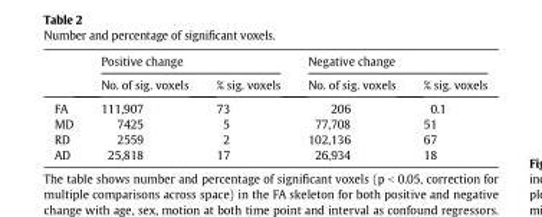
<table><thead><tr><td rowspan="2"></td><td colspan="2">Positive change</td><td colspan="2">Negative change</td></tr><tr><td>No. of sig. voxels</td><td>% sig. voxels</td><td>No. of sig. voxels</td><td>% sig. voxels</td></tr></thead><tbody><tr><td>FA</td><td>111,907</td><td>73</td><td>206</td><td>0.1</td></tr><tr><td>MD</td><td>7425</td><td>5</td><td>77,708</td><td>51</td></tr><tr><td>RD</td><td>2559</td><td>2</td><td>102,136</td><td>67</td></tr><tr><td>AD</td><td>25,818</td><td>17</td><td>26,934</td><td>18</td></tr></tbody></table>